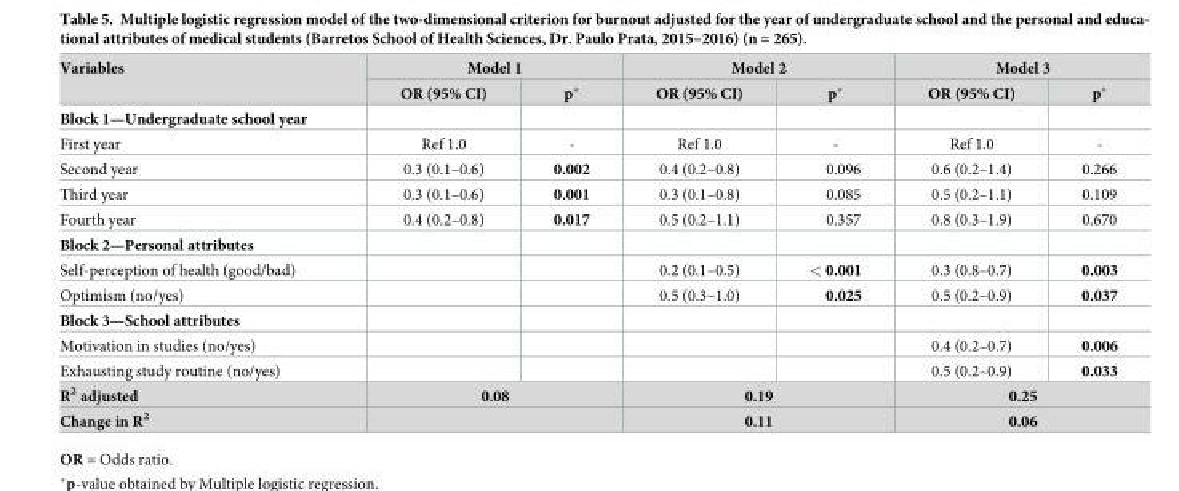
<table><thead><tr><td rowspan="2">Variables</td><td colspan="2">Model 1</td><td colspan="2">Model 2</td><td colspan="2">Model 3</td></tr><tr><td>OR (95% CI)</td><td>p*</td><td>OR (95% CI)</td><td>p*</td><td>OR (95% CI)</td><td>p*</td></tr></thead><tbody><tr><td colspan="7">Block 1—Undergraduate school year</td></tr><tr><td>First year</td><td>Ref 1.0</td><td>-</td><td>Ref 1.0</td><td>-</td><td>Ref 1.0</td><td>-</td></tr><tr><td>Second year</td><td>0.3 (0.1–0.6)</td><td>0.002</td><td>0.4 (0.2–0.8)</td><td>0.096</td><td>0.6 (0.2–1.4)</td><td>0.266</td></tr><tr><td>Third year</td><td>0.3 (0.1–0.6)</td><td>0.001</td><td>0.3 (0.1–0.8)</td><td>0.085</td><td>0.5 (0.2–1.1)</td><td>0.109</td></tr><tr><td>Fourth year</td><td>0.4 (0.2–0.8)</td><td>0.017</td><td>0.5 (0.2–1.1)</td><td>0.357</td><td>0.8 (0.3–1.9)</td><td>0.670</td></tr><tr><td colspan="7">Block 2—Personal attributes</td></tr><tr><td>Self-perception of health (good/bad)</td><td></td><td></td><td>0.2 (0.1–0.5)</td><td>&lt; 0.001</td><td>0.3 (0.8–0.7)</td><td>0.003</td></tr><tr><td>Optimism (no/yes)</td><td></td><td></td><td>0.5 (0.3–1.0)</td><td>0.025</td><td>0.5 (0.2–0.9)</td><td>0.037</td></tr><tr><td colspan="7">Block 3—School attributes</td></tr><tr><td>Motivation in studies (no/yes)</td><td></td><td></td><td></td><td></td><td>0.4 (0.2–0.7)</td><td>0.006</td></tr><tr><td>Exhausting study routine (no/yes)</td><td></td><td></td><td></td><td></td><td>0.5 (0.2–0.9)</td><td>0.033</td></tr><tr><td>R<sup>2</sup> adjusted</td><td colspan="2">0.08</td><td colspan="2">0.19</td><td colspan="2">0.25</td></tr><tr><td>Change in R<sup>2</sup></td><td colspan="2"></td><td colspan="2">0.11</td><td colspan="2">0.06</td></tr></tbody></table>